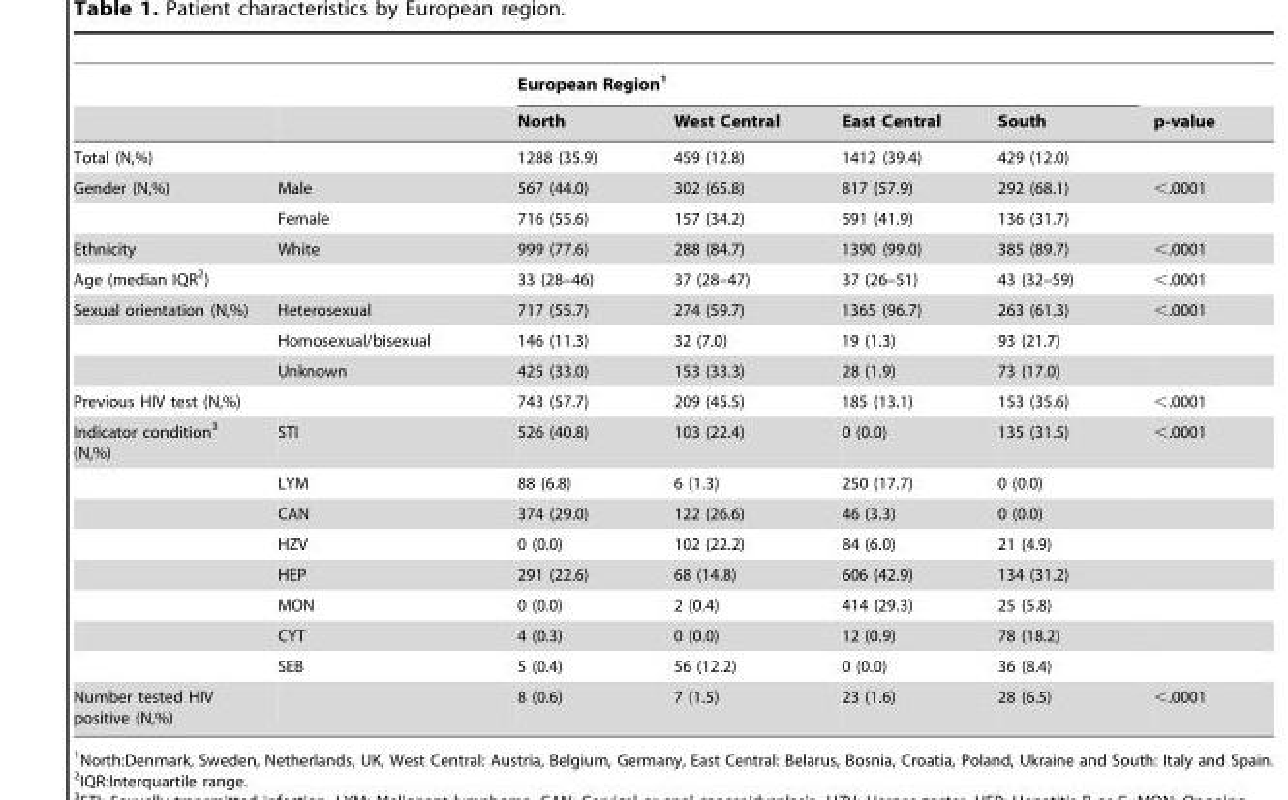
<table><thead><tr><td rowspan="2"></td><td rowspan="2"></td><td colspan="4">European Region<sup>1</sup></td><td rowspan="2">p-value</td></tr><tr><td>North</td><td>West Central</td><td>East Central</td><td>South</td></tr></thead><tbody><tr><td>Total (N,%)</td><td></td><td>1288 (35.9)</td><td>459 (12.8)</td><td>1412 (39.4)</td><td>429 (12.0)</td><td></td></tr><tr><td rowspan="2">Gender (N,%)</td><td>Male</td><td>567 (44.0)</td><td>302 (65.8)</td><td>817 (57.9)</td><td>292 (68.1)</td><td>&lt;.0001</td></tr><tr><td>Female</td><td>716 (55.6)</td><td>157 (34.2)</td><td>591 (41.9)</td><td>136 (31.7)</td><td></td></tr><tr><td>Ethnicity</td><td>White</td><td>999 (77.6)</td><td>288 (84.7)</td><td>1390 (99.0)</td><td>385 (89.7)</td><td>&lt;.0001</td></tr><tr><td>Age (median IQR<sup>2</sup>)</td><td></td><td>33 (28–46)</td><td>37 (28–47)</td><td>37 (26–51)</td><td>43 (32–59)</td><td>&lt;.0001</td></tr><tr><td rowspan="3">Sexual orientation (N,%)</td><td>Heterosexual</td><td>717 (55.7)</td><td>274 (59.7)</td><td>1365 (96.7)</td><td>263 (61.3)</td><td>&lt;.0001</td></tr><tr><td>Homosexual/bisexual</td><td>146 (11.3)</td><td>32 (7.0)</td><td>19 (1.3)</td><td>93 (21.7)</td><td></td></tr><tr><td>Unknown</td><td>425 (33.0)</td><td>153 (33.3)</td><td>28 (1.9)</td><td>73 (17.0)</td><td></td></tr><tr><td>Previous HIV test (N,%)</td><td></td><td>743 (57.7)</td><td>209 (45.5)</td><td>185 (13.1)</td><td>153 (35.6)</td><td>&lt;.0001</td></tr><tr><td rowspan="8">Indicator condition<sup>3</sup> (N,%)</td><td>STI</td><td>526 (40.8)</td><td>103 (22.4)</td><td>0 (0.0)</td><td>135 (31.5)</td><td>&lt;.0001</td></tr><tr><td>LYM</td><td>88 (6.8)</td><td>6 (1.3)</td><td>250 (17.7)</td><td>0 (0.0)</td><td></td></tr><tr><td>CAN</td><td>374 (29.0)</td><td>122 (26.6)</td><td>46 (3.3)</td><td>0 (0.0)</td><td></td></tr><tr><td>HZV</td><td>0 (0.0)</td><td>102 (22.2)</td><td>84 (6.0)</td><td>21 (4.9)</td><td></td></tr><tr><td>HEP</td><td>291 (22.6)</td><td>68 (14.8)</td><td>606 (42.9)</td><td>134 (31.2)</td><td></td></tr><tr><td>MON</td><td>0 (0.0)</td><td>2 (0.4)</td><td>414 (29.3)</td><td>25 (5.8)</td><td></td></tr><tr><td>CYT</td><td>4 (0.3)</td><td>0 (0.0)</td><td>12 (0.9)</td><td>78 (18.2)</td><td></td></tr><tr><td>SEB</td><td>5 (0.4)</td><td>56 (12.2)</td><td>0 (0.0)</td><td>36 (8.4)</td><td></td></tr><tr><td>Number tested HIV positive (N,%)</td><td></td><td>8 (0.6)</td><td>7 (1.5)</td><td>23 (1.6)</td><td>28 (6.5)</td><td>&lt;.0001</td></tr></tbody></table>